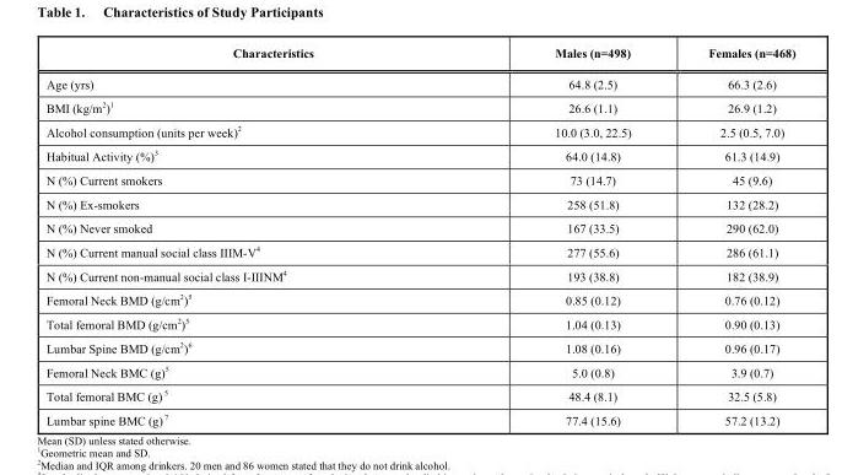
<table><thead><tr><td>Characteristics</td><td>Males (n=498)</td><td>Females (n=468)</td></tr></thead><tbody><tr><td>Age (yrs)</td><td>64.8 (2.5)</td><td>66.3 (2.6)</td></tr><tr><td>BMI (kg/m<sup>2</sup>)<sup>1</sup></td><td>26.6 (1.1)</td><td>26.9 (1.2)</td></tr><tr><td>Alcohol consumption (units per week)<sup>2</sup></td><td>10.0 (3.0, 22.5)</td><td>2.5 (0.5, 7.0)</td></tr><tr><td>Habitual Activity (%)<sup>3</sup></td><td>64.0 (14.8)</td><td>61.3 (14.9)</td></tr><tr><td>N (%) Current smokers</td><td>73 (14.7)</td><td>45 (9.6)</td></tr><tr><td>N (%) Ex-smokers</td><td>258 (51.8)</td><td>132 (28.2)</td></tr><tr><td>N (%) Never smoked</td><td>167 (33.5)</td><td>290 (62.0)</td></tr><tr><td>N (%) Current manual social class IIIM-V<sup>4</sup></td><td>277 (55.6)</td><td>286 (61.1)</td></tr><tr><td>N (%) Current non-manual social class I-IIINM<sup>4</sup></td><td>193 (38.8)</td><td>182 (38.9)</td></tr><tr><td>Femoral Neck BMD (g/cm<sup>2</sup>)<sup>5</sup></td><td>0.85 (0.12)</td><td>0.76 (0.12)</td></tr><tr><td>Total femoral BMD (g/cm<sup>2</sup>)<sup>5</sup></td><td>1.04 (0.13)</td><td>0.90 (0.13)</td></tr><tr><td>Lumbar Spine BMD (g/cm<sup>2</sup>)<sup>6</sup></td><td>1.08 (0.16)</td><td>0.96 (0.17)</td></tr><tr><td>Femoral Neck BMC (g)<sup>5</sup></td><td>5.0 (0.8)</td><td>3.9 (0.7)</td></tr><tr><td>Total femoral BMC (g) <sup>5</sup></td><td>48.4 (8.1)</td><td>32.5 (5.8)</td></tr><tr><td>Lumbar spine BMC (g) <sup>7</sup></td><td>77.4 (15.6)</td><td>57.2 (13.2)</td></tr></tbody></table>